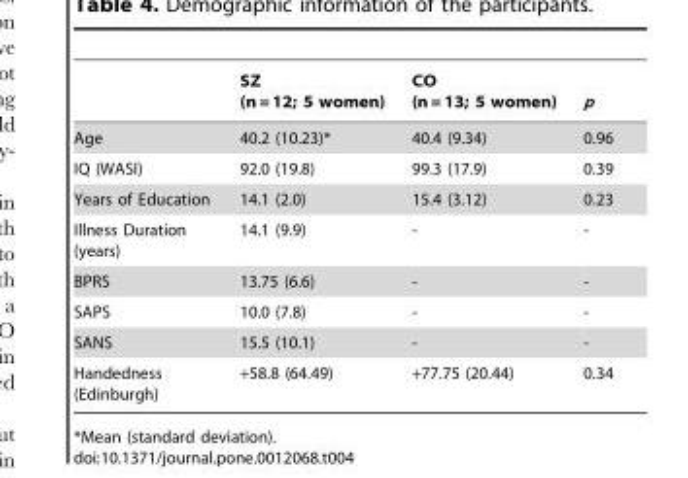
<table><thead><tr><td></td><td>SZ (n = 12; 5 women)</td><td>CO (n = 13; 5 women)</td><td>p</td></tr></thead><tbody><tr><td>Age</td><td>40.2 (10.23)*</td><td>40.4 (9.34)</td><td>0.96</td></tr><tr><td>IQ (WASI)</td><td>92.0 (19.8)</td><td>99.3 (17.9)</td><td>0.39</td></tr><tr><td>Years of Education</td><td>14.1 (2.0)</td><td>15.4 (3.12)</td><td>0.23</td></tr><tr><td>Illness Duration (years)</td><td>14.1 (9.9)</td><td>-</td><td>-</td></tr><tr><td>BPRS</td><td>13.75 (6.6)</td><td>-</td><td>-</td></tr><tr><td>SAPS</td><td>10.0 (7.8)</td><td>-</td><td>-</td></tr><tr><td>SANS</td><td>15.5 (10.1)</td><td>-</td><td>-</td></tr><tr><td>Handedness (Edinburgh)</td><td>+58.8 (64.49)</td><td>+77.75 (20.44)</td><td>0.34</td></tr></tbody></table>